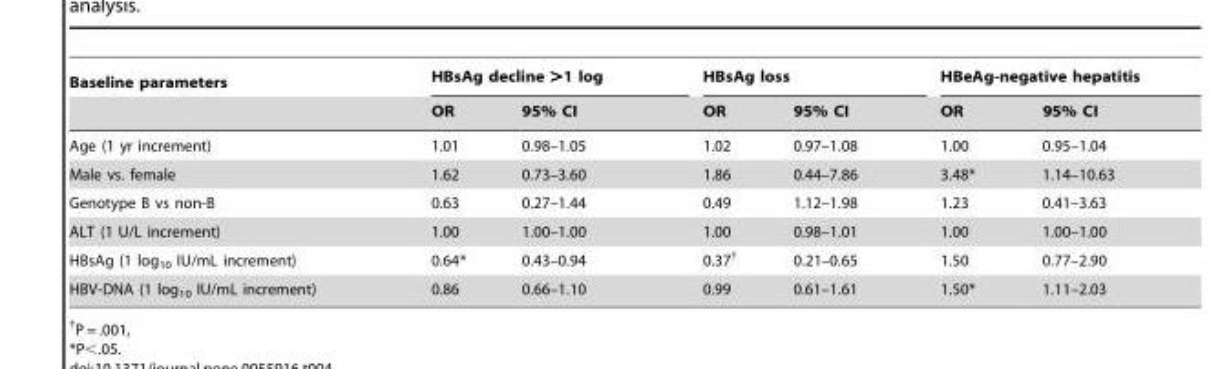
<table><thead><tr><td rowspan="2">Baseline parameters</td><td colspan="2">HBsAg decline &gt;1 log</td><td colspan="2">HBsAg loss</td><td colspan="2">HBeAg-negative hepatitis</td></tr><tr><td>OR</td><td>95% CI</td><td>OR</td><td>95% CI</td><td>OR</td><td>95% CI</td></tr></thead><tbody><tr><td>Age (1 yr increment)</td><td>1.01</td><td>0.98–1.05</td><td>1.02</td><td>0.97–1.08</td><td>1.00</td><td>0.95–1.04</td></tr><tr><td>Male vs. female</td><td>1.62</td><td>0.73–3.60</td><td>1.86</td><td>0.44–7.86</td><td>3.48*</td><td>1.14–10.63</td></tr><tr><td>Genotype B vs non-B</td><td>0.63</td><td>0.27–1.44</td><td>0.49</td><td>1.12–1.98</td><td>1.23</td><td>0.41–3.63</td></tr><tr><td>ALT (1 U/L increment)</td><td>1.00</td><td>1.00–1.00</td><td>1.00</td><td>0.98–1.01</td><td>1.00</td><td>1.00–1.00</td></tr><tr><td>HBsAg (1 log<sub>10</sub> IU/mL increment)</td><td>0.64*</td><td>0.43–0.94</td><td>0.37†</td><td>0.21–0.65</td><td>1.50</td><td>0.77–2.90</td></tr><tr><td>HBV-DNA (1 log<sub>10</sub> IU/mL increment)</td><td>0.86</td><td>0.66–1.10</td><td>0.99</td><td>0.61–1.61</td><td>1.50*</td><td>1.11–2.03</td></tr></tbody></table>